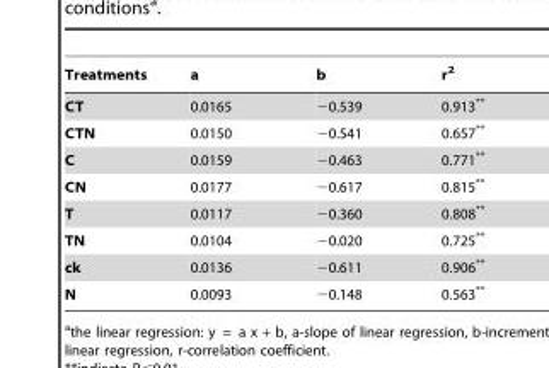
<table><thead><tr><td>Treatments</td><td>a</td><td>b</td><td>r<sup>2</sup></td></tr></thead><tbody><tr><td>CT</td><td>0.0165</td><td>−0.539</td><td>0.913**</td></tr><tr><td>CTN</td><td>0.0150</td><td>−0.541</td><td>0.657**</td></tr><tr><td>C</td><td>0.0159</td><td>−0.463</td><td>0.771**</td></tr><tr><td>CN</td><td>0.0177</td><td>−0.617</td><td>0.815**</td></tr><tr><td>T</td><td>0.0117</td><td>−0.360</td><td>0.808**</td></tr><tr><td>TN</td><td>0.0104</td><td>−0.020</td><td>0.725**</td></tr><tr><td>ck</td><td>0.0136</td><td>−0.611</td><td>0.906**</td></tr><tr><td>N</td><td>0.0093</td><td>−0.148</td><td>0.563**</td></tr></tbody></table>